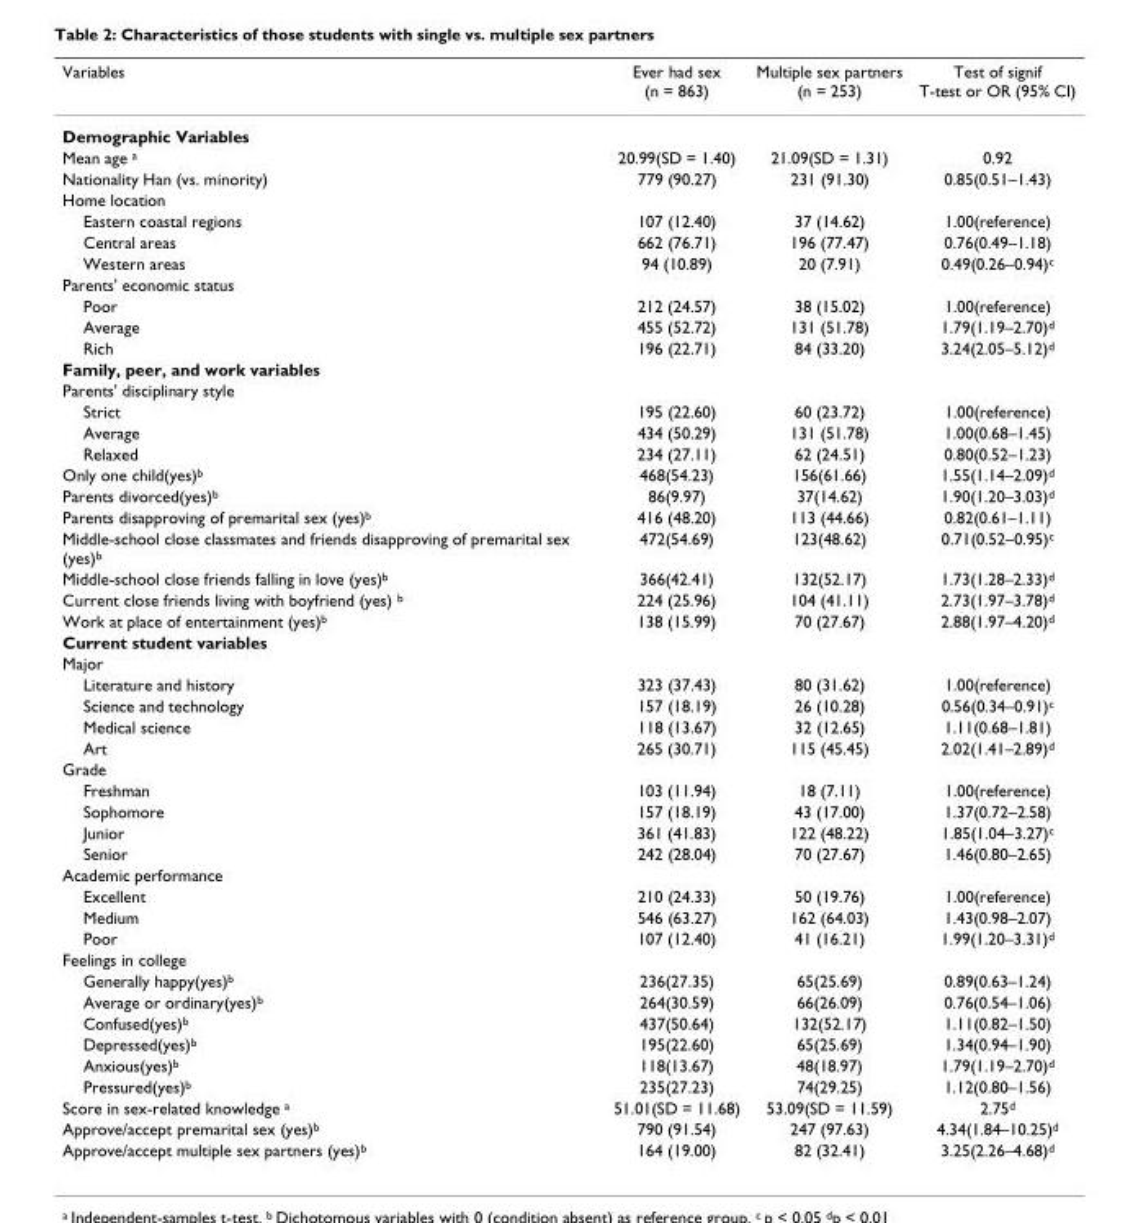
<table><thead><tr><td>Variables</td><td>Ever had sex (n = 863)</td><td>Multiple sex partners (n = 253)</td><td>Test of signif T-test or OR (95% CI)</td></tr></thead><tbody><tr><td colspan="4">Demographic Variables</td></tr><tr><td>Mean age <sup>a</sup></td><td>20.99(SD = 1.40)</td><td>21.09(SD = 1.31)</td><td>0.92</td></tr><tr><td>Nationality Han (vs. minority)</td><td>779 (90.27)</td><td>231 (91.30)</td><td>0.85(0.51–1.43)</td></tr><tr><td colspan="4">Home location</td></tr><tr><td>Eastern coastal regions</td><td>107 (12.40)</td><td>37 (14.62)</td><td>1.00(reference)</td></tr><tr><td>Central areas</td><td>662 (76.71)</td><td>196 (77.47)</td><td>0.76(0.49–1.18)</td></tr><tr><td>Western areas</td><td>94 (10.89)</td><td>20 (7.91)</td><td>0.49(0.26–0.94)<sup>c</sup></td></tr><tr><td colspan="4">Parents&#x27; economic status</td></tr><tr><td>Poor</td><td>212 (24.57)</td><td>38 (15.02)</td><td>1.00(reference)</td></tr><tr><td>Average</td><td>455 (52.72)</td><td>131 (51.78)</td><td>1.79(1.19–2.70)<sup>d</sup></td></tr><tr><td>Rich</td><td>196 (22.71)</td><td>84 (33.20)</td><td>3.24(2.05–5.12)<sup>d</sup></td></tr><tr><td colspan="4">Family, peer, and work variables</td></tr><tr><td colspan="4">Parents&#x27; disciplinary style</td></tr><tr><td>Strict</td><td>195 (22.60)</td><td>60 (23.72)</td><td>1.00(reference)</td></tr><tr><td>Average</td><td>434 (50.29)</td><td>131 (51.78)</td><td>1.00(0.68–1.45)</td></tr><tr><td>Relaxed</td><td>234 (27.11)</td><td>62 (24.51)</td><td>0.80(0.52–1.23)</td></tr><tr><td>Only one child(yes)<sup>b</sup></td><td>468(54.23)</td><td>156(61.66)</td><td>1.55(1.14–2.09)<sup>d</sup></td></tr><tr><td>Parents divorced(yes)<sup>b</sup></td><td>86(9.97)</td><td>37(14.62)</td><td>1.90(1.20–3.03)<sup>d</sup></td></tr><tr><td>Parents disapproving of premarital sex (yes)<sup>b</sup></td><td>416 (48.20)</td><td>113 (44.66)</td><td>0.82(0.61–1.11)</td></tr><tr><td>Middle-school close classmates and friends disapproving of premarital sex (yes)<sup>b</sup></td><td>472(54.69)</td><td>123(48.62)</td><td>0.71(0.52–0.95)<sup>c</sup></td></tr><tr><td>Middle-school close friends falling in love (yes)<sup>b</sup></td><td>366(42.41)</td><td>132(52.17)</td><td>1.73(1.28–2.33)<sup>d</sup></td></tr><tr><td>Current close friends living with boyfriend (yes) <sup>b</sup></td><td>224 (25.96)</td><td>104 (41.11)</td><td>2.73(1.97–3.78)<sup>d</sup></td></tr><tr><td>Work at place of entertainment (yes)<sup>b</sup></td><td>138 (15.99)</td><td>70 (27.67)</td><td>2.88(1.97–4.20)<sup>d</sup></td></tr><tr><td colspan="4">Current student variables</td></tr><tr><td colspan="4">Major</td></tr><tr><td>Literature and history</td><td>323 (37.43)</td><td>80 (31.62)</td><td>1.00(reference)</td></tr><tr><td>Science and technology</td><td>157 (18.19)</td><td>26 (10.28)</td><td>0.56(0.34–0.91)<sup>c</sup></td></tr><tr><td>Medical science</td><td>118 (13.67)</td><td>32 (12.65)</td><td>1.11(0.68–1.81)</td></tr><tr><td>Art</td><td>265 (30.71)</td><td>115 (45.45)</td><td>2.02(1.41–2.89)<sup>d</sup></td></tr><tr><td colspan="4">Grade</td></tr><tr><td>Freshman</td><td>103 (11.94)</td><td>18 (7.11)</td><td>1.00(reference)</td></tr><tr><td>Sophomore</td><td>157 (18.19)</td><td>43 (17.00)</td><td>1.37(0.72–2.58)</td></tr><tr><td>Junior</td><td>361 (41.83)</td><td>122 (48.22)</td><td>1.85(1.04–3.27)<sup>c</sup></td></tr><tr><td>Senior</td><td>242 (28.04)</td><td>70 (27.67)</td><td>1.46(0.80–2.65)</td></tr><tr><td colspan="4">Academic performance</td></tr><tr><td>Excellent</td><td>210 (24.33)</td><td>50 (19.76)</td><td>1.00(reference)</td></tr><tr><td>Medium</td><td>546 (63.27)</td><td>162 (64.03)</td><td>1.43(0.98–2.07)</td></tr><tr><td>Poor</td><td>107 (12.40)</td><td>41 (16.21)</td><td>1.99(1.20–3.31)<sup>d</sup></td></tr><tr><td colspan="4">Feelings in college</td></tr><tr><td>Generally happy(yes)<sup>b</sup></td><td>236(27.35)</td><td>65(25.69)</td><td>0.89(0.63–1.24)</td></tr><tr><td>Average or ordinary(yes)<sup>b</sup></td><td>264(30.59)</td><td>66(26.09)</td><td>0.76(0.54–1.06)</td></tr><tr><td>Confused(yes)<sup>b</sup></td><td>437(50.64)</td><td>132(52.17)</td><td>1.11(0.82–1.50)</td></tr><tr><td>Depressed(yes)<sup>b</sup></td><td>195(22.60)</td><td>65(25.69)</td><td>1.34(0.94–1.90)</td></tr><tr><td>Anxious(yes)<sup>b</sup></td><td>118(13.67)</td><td>48(18.97)</td><td>1.79(1.19–2.70)<sup>d</sup></td></tr><tr><td>Pressured(yes)<sup>b</sup></td><td>235(27.23)</td><td>74(29.25)</td><td>1.12(0.80–1.56)</td></tr><tr><td>Score in sex-related knowledge <sup>a</sup></td><td>51.01(SD = 11.68)</td><td>53.09(SD = 11.59)</td><td>2.75<sup>d</sup></td></tr><tr><td>Approve/accept premarital sex (yes)<sup>b</sup></td><td>790 (91.54)</td><td>247 (97.63)</td><td>4.34(1.84–10.25)<sup>d</sup></td></tr><tr><td>Approve/accept multiple sex partners (yes)<sup>b</sup></td><td>164 (19.00)</td><td>82 (32.41)</td><td>3.25(2.26–4.68)<sup>d</sup></td></tr></tbody></table>